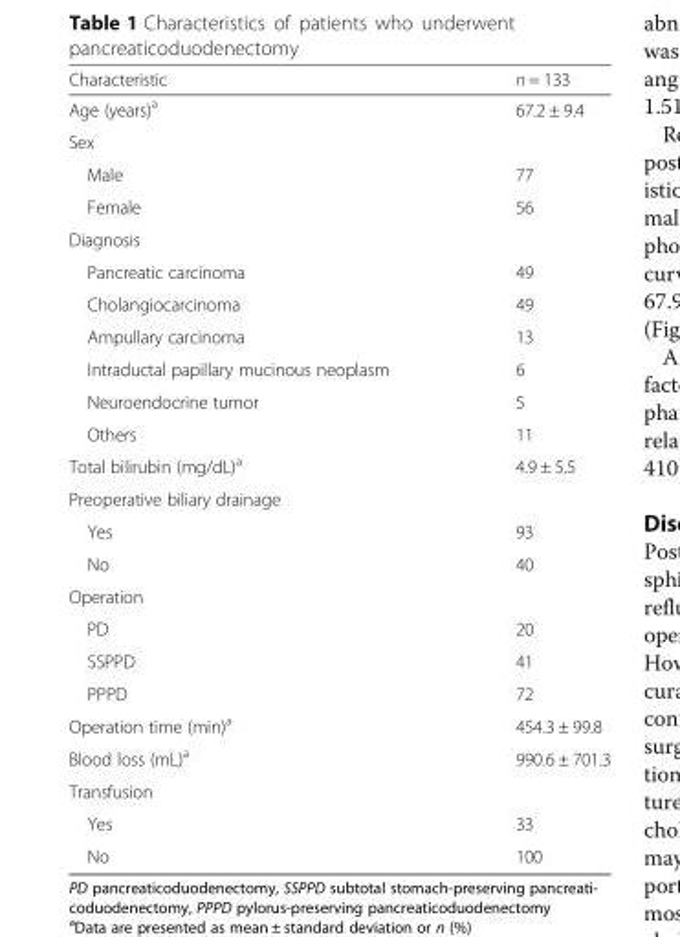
<table><thead><tr><td>Characteristic</td><td>n = 133</td></tr></thead><tbody><tr><td>Age (years)<sup>a</sup></td><td>67.2 ± 9.4</td></tr><tr><td colspan="2">Sex</td></tr><tr><td>Male</td><td>77</td></tr><tr><td>Female</td><td>56</td></tr><tr><td colspan="2">Diagnosis</td></tr><tr><td>Pancreatic carcinoma</td><td>49</td></tr><tr><td>Cholangiocarcinoma</td><td>49</td></tr><tr><td>Ampullary carcinoma</td><td>13</td></tr><tr><td>Intraductal papillary mucinous neoplasm</td><td>6</td></tr><tr><td>Neuroendocrine tumor</td><td>5</td></tr><tr><td>Others</td><td>11</td></tr><tr><td>Total bilirubin (mg/dL)<sup>a</sup></td><td>4.9 ± 5.5</td></tr><tr><td colspan="2">Preoperative biliary drainage</td></tr><tr><td>Yes</td><td>93</td></tr><tr><td>No</td><td>40</td></tr><tr><td colspan="2">Operation</td></tr><tr><td>PD</td><td>20</td></tr><tr><td>SSPPD</td><td>41</td></tr><tr><td>PPPD</td><td>72</td></tr><tr><td>Operation time (min)<sup>a</sup></td><td>454.3 ± 99.8</td></tr><tr><td>Blood loss (mL)<sup>a</sup></td><td>990.6 ± 701.3</td></tr><tr><td colspan="2">Transfusion</td></tr><tr><td>Yes</td><td>33</td></tr><tr><td>No</td><td>100</td></tr></tbody></table>